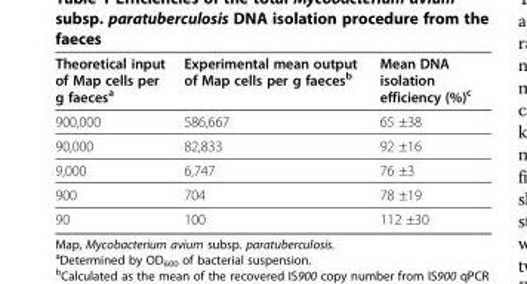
<table><thead><tr><td>Theoretical input of Map cells per g faeces<sup>a</sup></td><td>Experimental mean output of Map cells per g faeces<sup>b</sup></td><td>Mean DNA isolation efficiency (%)<sup>c</sup></td></tr></thead><tbody><tr><td>900,000</td><td>586,667</td><td>65 ±38</td></tr><tr><td>90,000</td><td>82,833</td><td>92 ±16</td></tr><tr><td>9,000</td><td>6,747</td><td>76 ±3</td></tr><tr><td>900</td><td>704</td><td>78 ±19</td></tr><tr><td>90</td><td>100</td><td>112 ±30</td></tr></tbody></table>